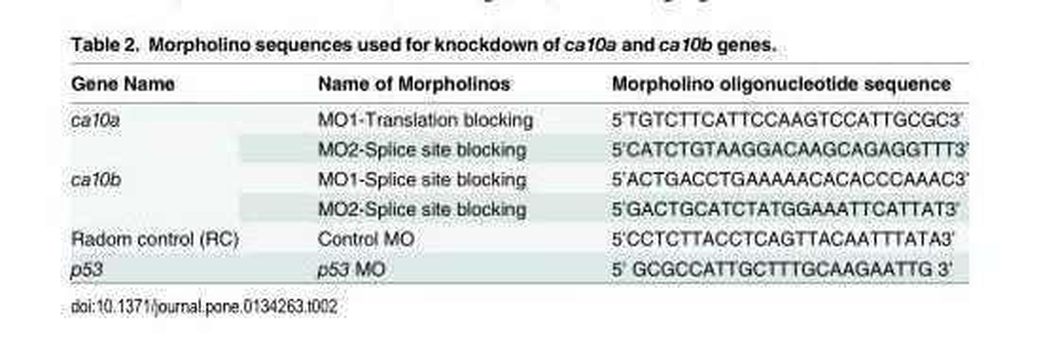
<table><thead><tr><td>Gene Name</td><td>Name of Morpholinos</td><td>Morpholino oligonucleotide sequence</td></tr></thead><tbody><tr><td rowspan="2">ca10a</td><td>MO1-Translation blocking</td><td>5’TGTCTTCATTCCAAGTCCATTGCGC3’</td></tr><tr><td>MO2-Splice site blocking</td><td>5’CATCTGTAAGGACAAGCAGAGGTTT3’</td></tr><tr><td rowspan="2">ca10b</td><td>MO1-Splice site blocking</td><td>5’ACTGACCTGAAAAACACACCCAAAC3’</td></tr><tr><td>MO2-Splice site blocking</td><td>5’GACTGCATCTATGGAAATTCATTAT3’</td></tr><tr><td>Radom control (RC)</td><td>Control MO</td><td>5’CCTCTTACCTCAGTTACAATTTATA3’</td></tr><tr><td>p53</td><td>p53 MO</td><td>5’ GCGCCATTGCTTTGCAAGAATTG 3’</td></tr></tbody></table>